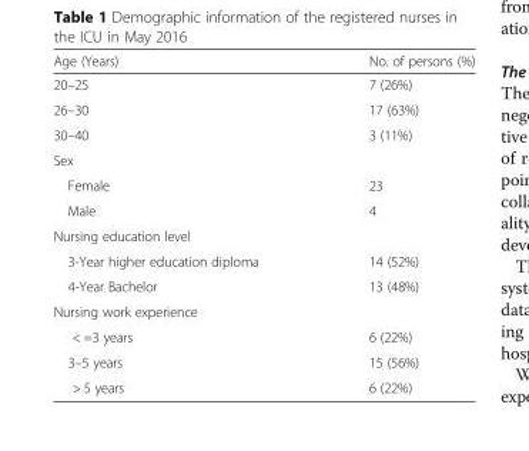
<table><thead><tr><td>Age (Years)</td><td>No. of persons (%)</td></tr></thead><tbody><tr><td>20–25</td><td>7 (26%)</td></tr><tr><td>26–30</td><td>17 (63%)</td></tr><tr><td>30–40</td><td>3 (11%)</td></tr><tr><td colspan="2">Sex</td></tr><tr><td>Female</td><td>23</td></tr><tr><td>Male</td><td>4</td></tr><tr><td colspan="2">Nursing education level</td></tr><tr><td>3-Year higher education diploma</td><td>14 (52%)</td></tr><tr><td>4-Year Bachelor</td><td>13 (48%)</td></tr><tr><td colspan="2">Nursing work experience</td></tr><tr><td>&lt; =3 years</td><td>6 (22%)</td></tr><tr><td>3–5 years</td><td>15 (56%)</td></tr><tr><td>&gt; 5 years</td><td>6 (22%)</td></tr></tbody></table>